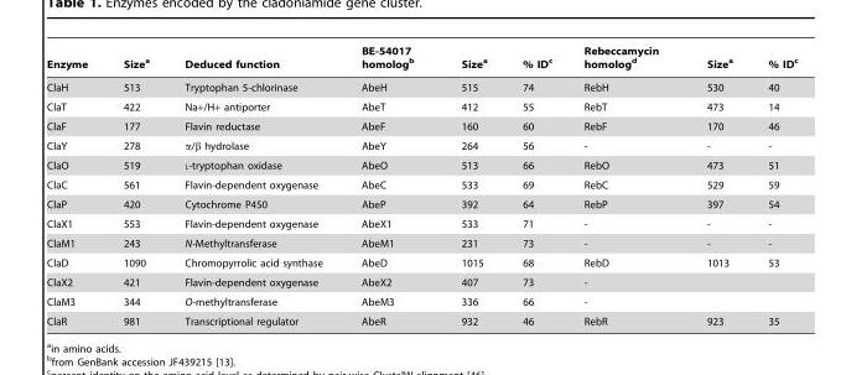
<table><thead><tr><td>Enzyme</td><td>Size<sup>a</sup></td><td>Deduced function</td><td>BE-54017 homolog<sup>b</sup></td><td>Size<sup>a</sup></td><td>% ID<sup>c</sup></td><td>Rebeccamycin homolog<sup>d</sup></td><td>Size<sup>a</sup></td><td>% ID<sup>c</sup></td></tr></thead><tbody><tr><td>ClaH</td><td>513</td><td>Tryptophan 5-chlorinase</td><td>AbeH</td><td>515</td><td>74</td><td>RebH</td><td>530</td><td>40</td></tr><tr><td>ClaT</td><td>422</td><td>Na+/H+ antiporter</td><td>AbeT</td><td>412</td><td>55</td><td>RebT</td><td>473</td><td>14</td></tr><tr><td>ClaF</td><td>177</td><td>Flavin reductase</td><td>AbeF</td><td>160</td><td>60</td><td>RebF</td><td>170</td><td>46</td></tr><tr><td>ClaY</td><td>278</td><td>α/β hydrolase</td><td>AbeY</td><td>264</td><td>56</td><td>-</td><td>-</td><td>-</td></tr><tr><td>ClaO</td><td>519</td><td>L-tryptophan oxidase</td><td>AbeO</td><td>513</td><td>66</td><td>RebO</td><td>473</td><td>51</td></tr><tr><td>ClaC</td><td>561</td><td>Flavin-dependent oxygenase</td><td>AbeC</td><td>533</td><td>69</td><td>RebC</td><td>529</td><td>59</td></tr><tr><td>ClaP</td><td>420</td><td>Cytochrome P450</td><td>AbeP</td><td>392</td><td>64</td><td>RebP</td><td>397</td><td>54</td></tr><tr><td>ClaX1</td><td>553</td><td>Flavin-dependent oxygenase</td><td>AbeX1</td><td>533</td><td>71</td><td>-</td><td>-</td><td>-</td></tr><tr><td>ClaM1</td><td>243</td><td>N-Methyltransferase</td><td>AbeM1</td><td>231</td><td>73</td><td>-</td><td>-</td><td>-</td></tr><tr><td>ClaD</td><td>1090</td><td>Chromopyrrolic acid synthase</td><td>AbeD</td><td>1015</td><td>68</td><td>RebD</td><td>1013</td><td>53</td></tr><tr><td>ClaX2</td><td>421</td><td>Flavin-dependent oxygenase</td><td>AbeX2</td><td>407</td><td>73</td><td>-</td><td></td><td></td></tr><tr><td>ClaM3</td><td>344</td><td>O-methyltransferase</td><td>AbeM3</td><td>336</td><td>66</td><td>-</td><td></td><td></td></tr><tr><td>ClaR</td><td>981</td><td>Transcriptional regulator</td><td>AbeR</td><td>932</td><td>46</td><td>RebR</td><td>923</td><td>35</td></tr></tbody></table>